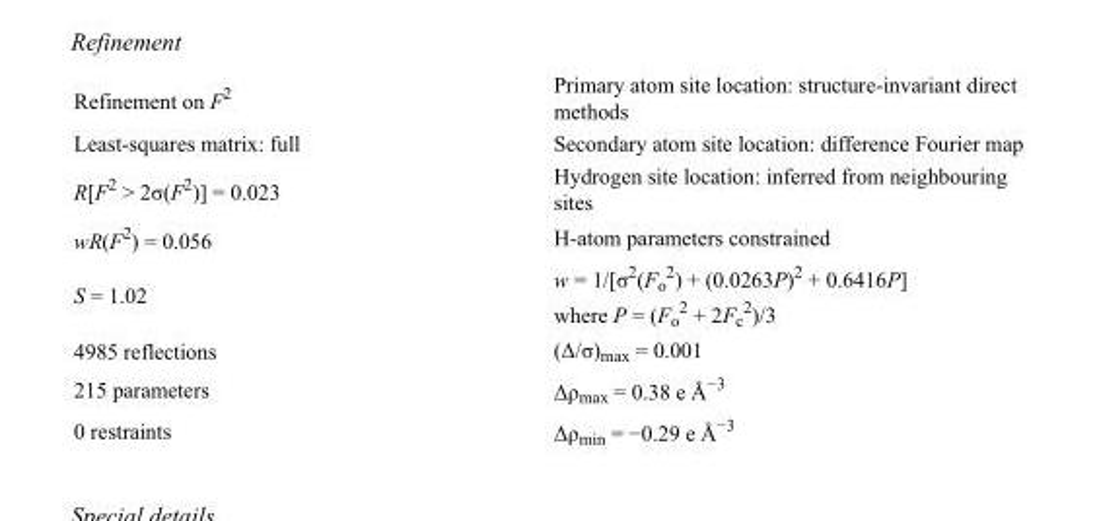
<table><tbody><tr><td>Refinement on F<sup>2</sup></td><td>Primary atom site location: structure-invariant direct methods</td></tr><tr><td>Least-squares matrix: full</td><td>Secondary atom site location: difference Fourier map</td></tr><tr><td>R[F<sup>2</sup> &gt; 2σ(F<sup>2</sup>)] = 0.023</td><td>Hydrogen site location: inferred from neighbouring sites</td></tr><tr><td>wR(F<sup>2</sup>) = 0.056</td><td>H-atom parameters constrained</td></tr><tr><td>S = 1.02</td><td>w = 1/[σ<sup>2</sup>(F<sub>o</sub> <sup>2</sup>) + (0.0263P)<sup>2</sup> + 0.6416P] where P = (F<sub>o</sub> <sup>2</sup> + 2F<sub>c</sub> <sup>2</sup>)/3</td></tr><tr><td>4985 reflections</td><td>(Δ/σ)<sub>max</sub> = 0.001</td></tr><tr><td>215 parameters</td><td>Δρ<sub>max</sub> = 0.38 e Å<sup>−3</sup></td></tr><tr><td>0 restraints</td><td>Δρ<sub>min</sub> = −0.29 e Å<sup>−3</sup></td></tr></tbody></table>